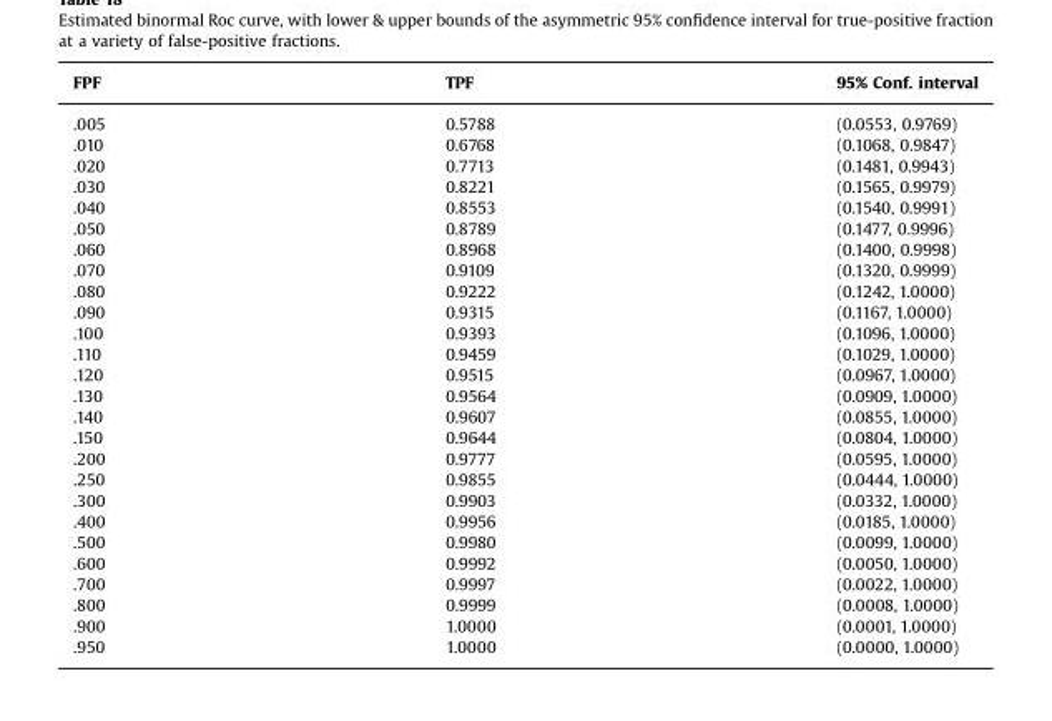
<table><thead><tr><td>FPF</td><td>TPF</td><td>95% Conf. interval</td></tr></thead><tbody><tr><td>.005</td><td>0.5788</td><td>(0.0553, 0.9769)</td></tr><tr><td>.010</td><td>0.6768</td><td>(0.1068, 0.9847)</td></tr><tr><td>.020</td><td>0.7713</td><td>(0.1481, 0.9943)</td></tr><tr><td>.030</td><td>0.8221</td><td>(0.1565, 0.9979)</td></tr><tr><td>.040</td><td>0.8553</td><td>(0.1540, 0.9991)</td></tr><tr><td>.050</td><td>0.8789</td><td>(0.1477, 0.9996)</td></tr><tr><td>.060</td><td>0.8968</td><td>(0.1400, 0.9998)</td></tr><tr><td>.070</td><td>0.9109</td><td>(0.1320, 0.9999)</td></tr><tr><td>.080</td><td>0.9222</td><td>(0.1242, 1.0000)</td></tr><tr><td>.090</td><td>0.9315</td><td>(0.1167, 1.0000)</td></tr><tr><td>.100</td><td>0.9393</td><td>(0.1096, 1.0000)</td></tr><tr><td>.110</td><td>0.9459</td><td>(0.1029, 1.0000)</td></tr><tr><td>.120</td><td>0.9515</td><td>(0.0967, 1.0000)</td></tr><tr><td>.130</td><td>0.9564</td><td>(0.0909, 1.0000)</td></tr><tr><td>.140</td><td>0.9607</td><td>(0.0855, 1.0000)</td></tr><tr><td>.150</td><td>0.9644</td><td>(0.0804, 1.0000)</td></tr><tr><td>.200</td><td>0.9777</td><td>(0.0595, 1.0000)</td></tr><tr><td>.250</td><td>0.9855</td><td>(0.0444, 1.0000)</td></tr><tr><td>.300</td><td>0.9903</td><td>(0.0332, 1.0000)</td></tr><tr><td>.400</td><td>0.9956</td><td>(0.0185, 1.0000)</td></tr><tr><td>.500</td><td>0.9980</td><td>(0.0099, 1.0000)</td></tr><tr><td>.600</td><td>0.9992</td><td>(0.0050, 1.0000)</td></tr><tr><td>.700</td><td>0.9997</td><td>(0.0022, 1.0000)</td></tr><tr><td>.800</td><td>0.9999</td><td>(0.0008, 1.0000)</td></tr><tr><td>.900</td><td>1.0000</td><td>(0.0001, 1.0000)</td></tr><tr><td>.950</td><td>1.0000</td><td>(0.0000, 1.0000)</td></tr></tbody></table>